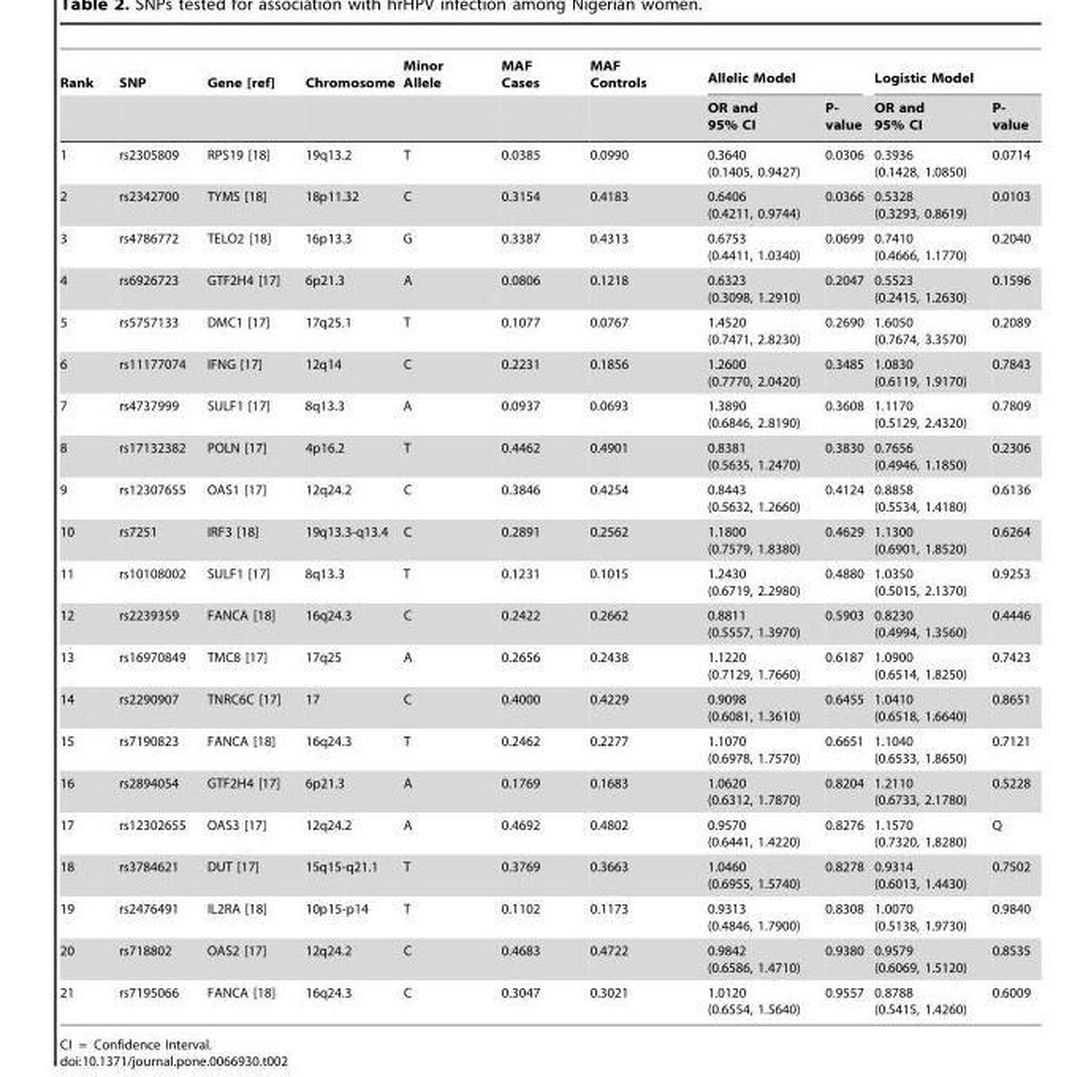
<table><thead><tr><td rowspan="2">Rank</td><td rowspan="2">SNP</td><td rowspan="2">Gene [ref]</td><td rowspan="2">Chromosome</td><td rowspan="2">Minor Allele</td><td rowspan="2">MAF Cases</td><td rowspan="2">MAF Controls</td><td colspan="2">Allelic Model</td><td colspan="2">Logistic Model</td></tr><tr><td>OR and 95% CI</td><td>P- value</td><td>OR and 95% CI</td><td>P- value</td></tr></thead><tbody><tr><td>1</td><td>rs2305809</td><td>RPS19 [18]</td><td>19q13.2</td><td>T</td><td>0.0385</td><td>0.0990</td><td>0.3640 (0.1405, 0.9427)</td><td>0.0306</td><td>0.3936 (0.1428, 1.0850)</td><td>0.0714</td></tr><tr><td>2</td><td>rs2342700</td><td>TYMS [18]</td><td>18p11.32</td><td>C</td><td>0.3154</td><td>0.4183</td><td>0.6406 (0.4211, 0.9744)</td><td>0.0366</td><td>0.5328 (0.3293, 0.8619)</td><td>0.0103</td></tr><tr><td>3</td><td>rs4786772</td><td>TELO2 [18]</td><td>16p13.3</td><td>G</td><td>0.3387</td><td>0.4313</td><td>0.6753 (0.4411, 1.0340)</td><td>0.0699</td><td>0.7410 (0.4666, 1.1770)</td><td>0.2040</td></tr><tr><td>4</td><td>rs6926723</td><td>GTF2H4 [17]</td><td>6p21.3</td><td>A</td><td>0.0806</td><td>0.1218</td><td>0.6323 (0.3098, 1.2910)</td><td>0.2047</td><td>0.5523 (0.2415, 1.2630)</td><td>0.1596</td></tr><tr><td>5</td><td>rs5757133</td><td>DMC1 [17]</td><td>17q25.1</td><td>T</td><td>0.1077</td><td>0.0767</td><td>1.4520 (0.7471, 2.8230)</td><td>0.2690</td><td>1.6050 (0.7674, 3.3570)</td><td>0.2089</td></tr><tr><td>6</td><td>rs11177074</td><td>IFNG [17]</td><td>12q14</td><td>C</td><td>0.2231</td><td>0.1856</td><td>1.2600 (0.7770, 2.0420)</td><td>0.3485</td><td>1.0830 (0.6119, 1.9170)</td><td>0.7843</td></tr><tr><td>7</td><td>rs4737999</td><td>SULF1 [17]</td><td>8q13.3</td><td>A</td><td>0.0937</td><td>0.0693</td><td>1.3890 (0.6846, 2.8190)</td><td>0.3608</td><td>1.1170 (0.5129, 2.4320)</td><td>0.7809</td></tr><tr><td>8</td><td>rs17132382</td><td>POLN [17]</td><td>4p16.2</td><td>T</td><td>0.4462</td><td>0.4901</td><td>0.8381 (0.5635, 1.2470)</td><td>0.3830</td><td>0.7656 (0.4946, 1.1850)</td><td>0.2306</td></tr><tr><td>9</td><td>rs12307655</td><td>OAS1 [17]</td><td>12q24.2</td><td>C</td><td>0.3846</td><td>0.4254</td><td>0.8443 (0.5632, 1.2660)</td><td>0.4124</td><td>0.8858 (0.5534, 1.4180)</td><td>0.6136</td></tr><tr><td>10</td><td>rs7251</td><td>IRF3 [18]</td><td>19q13.3-q13.4</td><td>C</td><td>0.2891</td><td>0.2562</td><td>1.1800 (0.7579, 1.8380)</td><td>0.4629</td><td>1.1300 (0.6901, 1.8520)</td><td>0.6264</td></tr><tr><td>11</td><td>rs10108002</td><td>SULF1 [17]</td><td>8q13.3</td><td>T</td><td>0.1231</td><td>0.1015</td><td>1.2430 (0.6719, 2.2980)</td><td>0.4880</td><td>1.0350 (0.5015, 2.1370)</td><td>0.9253</td></tr><tr><td>12</td><td>rs2239359</td><td>FANCA [18]</td><td>16q24.3</td><td>C</td><td>0.2422</td><td>0.2662</td><td>0.8811 (0.5557, 1.3970)</td><td>0.5903</td><td>0.8230 (0.4994, 1.3560)</td><td>0.4446</td></tr><tr><td>13</td><td>rs16970849</td><td>TMC8 [17]</td><td>17q25</td><td>A</td><td>0.2656</td><td>0.2438</td><td>1.1220 (0.7129, 1.7660)</td><td>0.6187</td><td>1.0900 (0.6514, 1.8250)</td><td>0.7423</td></tr><tr><td>14</td><td>rs2290907</td><td>TNRC6C [17]</td><td>17</td><td>C</td><td>0.4000</td><td>0.4229</td><td>0.9098 (0.6081, 1.3610)</td><td>0.6455</td><td>1.0410 (0.6518, 1.6640)</td><td>0.8651</td></tr><tr><td>15</td><td>rs7190823</td><td>FANCA [18]</td><td>16q24.3</td><td>T</td><td>0.2462</td><td>0.2277</td><td>1.1070 (0.6978, 1.7570)</td><td>0.6651</td><td>1.1040 (0.6533, 1.8650)</td><td>0.7121</td></tr><tr><td>16</td><td>rs2894054</td><td>GTF2H4 [17]</td><td>6p21.3</td><td>A</td><td>0.1769</td><td>0.1683</td><td>1.0620 (0.6312, 1.7870)</td><td>0.8204</td><td>1.2110 (0.6733, 2.1780)</td><td>0.5228</td></tr><tr><td>17</td><td>rs12302655</td><td>OAS3 [17]</td><td>12q24.2</td><td>A</td><td>0.4692</td><td>0.4802</td><td>0.9570 (0.6441, 1.4220)</td><td>0.8276</td><td>1.1570 (0.7320, 1.8280)</td><td>Q</td></tr><tr><td>18</td><td>rs3784621</td><td>DUT [17]</td><td>15q15-q21.1</td><td>T</td><td>0.3769</td><td>0.3663</td><td>1.0460 (0.6955, 1.5740)</td><td>0.8278</td><td>0.9314 (0.6013, 1.4430)</td><td>0.7502</td></tr><tr><td>19</td><td>rs2476491</td><td>IL2RA [18]</td><td>10p15-p14</td><td>T</td><td>0.1102</td><td>0.1173</td><td>0.9313 (0.4846, 1.7900)</td><td>0.8308</td><td>1.0070 (0.5138, 1.9730)</td><td>0.9840</td></tr><tr><td>20</td><td>rs718802</td><td>OAS2 [17]</td><td>12q24.2</td><td>C</td><td>0.4683</td><td>0.4722</td><td>0.9842 (0.6586, 1.4710)</td><td>0.9380</td><td>0.9579 (0.6069, 1.5120)</td><td>0.8535</td></tr><tr><td>21</td><td>rs7195066</td><td>FANCA [18]</td><td>16q24.3</td><td>C</td><td>0.3047</td><td>0.3021</td><td>1.0120 (0.6554, 1.5640)</td><td>0.9557</td><td>0.8788 (0.5415, 1.4260)</td><td>0.6009</td></tr></tbody></table>